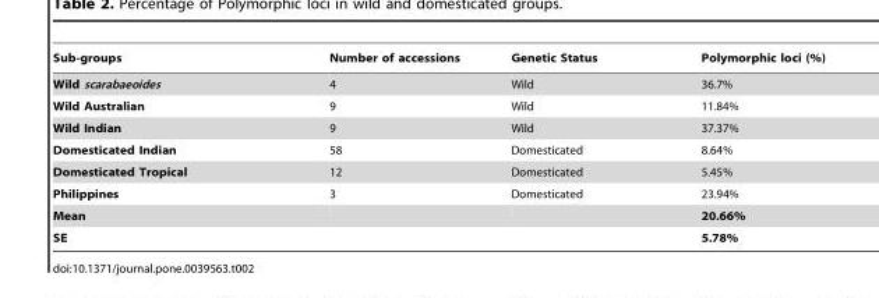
<table><thead><tr><td>Sub-groups</td><td>Number of accessions</td><td>Genetic Status</td><td>Polymorphic loci (%)</td></tr></thead><tbody><tr><td>Wild scarabaeoides</td><td>4</td><td>Wild</td><td>36.7%</td></tr><tr><td>Wild Australian</td><td>9</td><td>Wild</td><td>11.84%</td></tr><tr><td>Wild Indian</td><td>9</td><td>Wild</td><td>37.37%</td></tr><tr><td>Domesticated Indian</td><td>58</td><td>Domesticated</td><td>8.64%</td></tr><tr><td>Domesticated Tropical</td><td>12</td><td>Domesticated</td><td>5.45%</td></tr><tr><td>Philippines</td><td>3</td><td>Domesticated</td><td>23.94%</td></tr><tr><td>Mean</td><td></td><td></td><td>20.66%</td></tr><tr><td>SE</td><td></td><td></td><td>5.78%</td></tr></tbody></table>